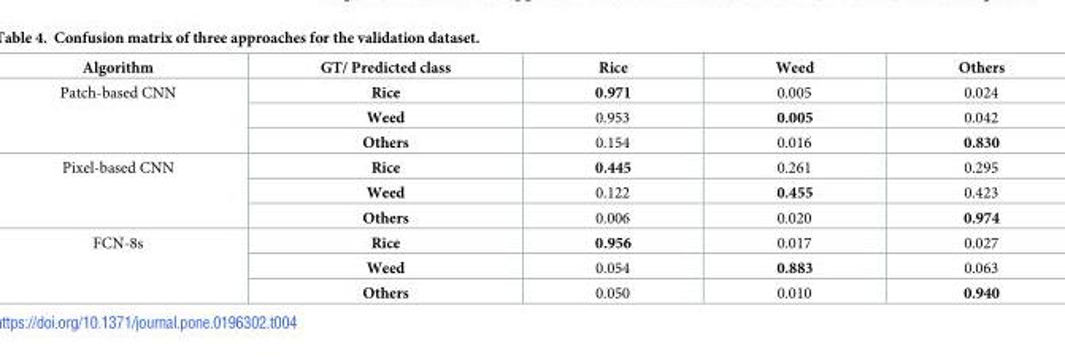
<table><thead><tr><td>Algorithm</td><td>GT/ Predicted class</td><td>Rice</td><td>Weed</td><td>Others</td></tr></thead><tbody><tr><td rowspan="3">Patch-based CNN</td><td>Rice</td><td>0.971</td><td>0.005</td><td>0.024</td></tr><tr><td>Weed</td><td>0.953</td><td>0.005</td><td>0.042</td></tr><tr><td>Others</td><td>0.154</td><td>0.016</td><td>0.830</td></tr><tr><td rowspan="3">Pixel-based CNN</td><td>Rice</td><td>0.445</td><td>0.261</td><td>0.295</td></tr><tr><td>Weed</td><td>0.122</td><td>0.455</td><td>0.423</td></tr><tr><td>Others</td><td>0.006</td><td>0.020</td><td>0.974</td></tr><tr><td rowspan="3">FCN-8s</td><td>Rice</td><td>0.956</td><td>0.017</td><td>0.027</td></tr><tr><td>Weed</td><td>0.054</td><td>0.883</td><td>0.063</td></tr><tr><td>Others</td><td>0.050</td><td>0.010</td><td>0.940</td></tr></tbody></table>